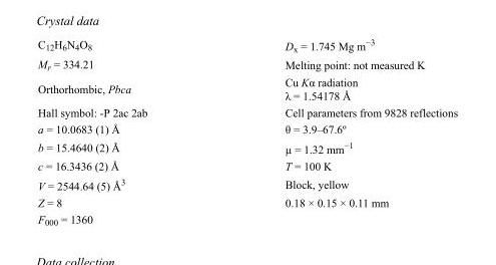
<table><tbody><tr><td>C<sub>12</sub>H<sub>6</sub>N<sub>4</sub>O<sub>8</sub></td><td>D<sub>x</sub> = 1.745 Mg m<sup>−3</sup></td></tr><tr><td>M<sub>r</sub> = 334.21</td><td>Melting point: not measured K</td></tr><tr><td>Orthorhombic, Pbca</td><td>Cu Kα radiation λ = 1.54178 Å</td></tr><tr><td>Hall symbol: -P 2ac 2ab</td><td>Cell parameters from 9828 reflections</td></tr><tr><td>a = 10.0683 (1) Å</td><td>θ = 3.9–67.6º</td></tr><tr><td>b = 15.4640 (2) Å</td><td>µ = 1.32 mm<sup>−1</sup></td></tr><tr><td>c = 16.3436 (2) Å</td><td>T = 100 K</td></tr><tr><td>V = 2544.64 (5) Å<sup>3</sup></td><td>Block, yellow</td></tr><tr><td>Z = 8</td><td>0.18 × 0.15 × 0.11 mm</td></tr><tr><td>F000 = 1360</td><td></td></tr></tbody></table>